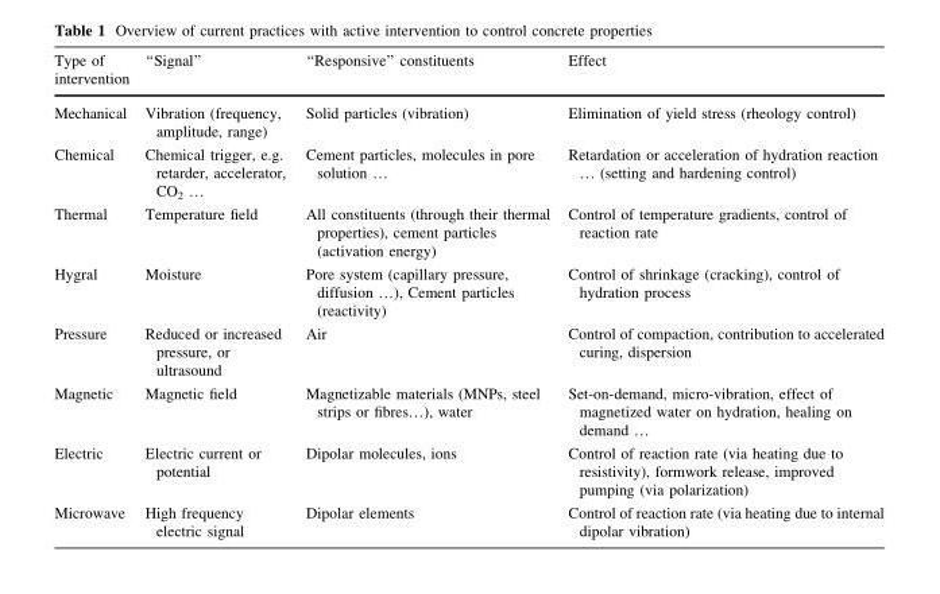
<table><thead><tr><td>Type of intervention</td><td>‘‘Signal’’</td><td>‘‘Responsive’’ constituents</td><td>Effect</td></tr></thead><tbody><tr><td>Mechanical</td><td>Vibration (frequency, amplitude, range)</td><td>Solid particles (vibration)</td><td>Elimination of yield stress (rheology control)</td></tr><tr><td>Chemical</td><td>Chemical trigger, e.g. retarder, accelerator, CO<sub>2</sub> …</td><td>Cement particles, molecules in pore solution …</td><td>Retardation or acceleration of hydration reaction … (setting and hardening control)</td></tr><tr><td>Thermal</td><td>Temperature field</td><td>All constituents (through their thermal properties), cement particles (activation energy)</td><td>Control of temperature gradients, control of reaction rate</td></tr><tr><td>Hygral</td><td>Moisture</td><td>Pore system (capillary pressure, diffusion …), Cement particles (reactivity)</td><td>Control of shrinkage (cracking), control of hydration process</td></tr><tr><td>Pressure</td><td>Reduced or increased pressure, or ultrasound</td><td>Air</td><td>Control of compaction, contribution to accelerated curing, dispersion</td></tr><tr><td>Magnetic</td><td>Magnetic field</td><td>Magnetizable materials (MNPs, steel strips or fibres…), water</td><td>Set-on-demand, micro-vibration, effect of magnetized water on hydration, healing on demand …</td></tr><tr><td>Electric</td><td>Electric current or potential</td><td>Dipolar molecules, ions</td><td>Control of reaction rate (via heating due to resistivity), formwork release, improved pumping (via polarization)</td></tr><tr><td>Microwave</td><td>High frequency electric signal</td><td>Dipolar elements</td><td>Control of reaction rate (via heating due to internal dipolar vibration)</td></tr></tbody></table>